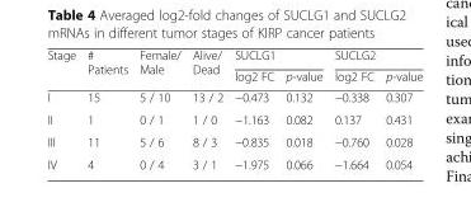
<table><thead><tr><td rowspan="2">Stage</td><td rowspan="2"># Patients</td><td rowspan="2">Female/ Male</td><td rowspan="2">Alive/ Dead</td><td colspan="2">SUCLG1</td><td colspan="2">SUCLG2</td></tr><tr><td>log2 FC</td><td>p-value</td><td>log2 FC</td><td>p-value</td></tr></thead><tbody><tr><td>I</td><td>15</td><td>5 / 10</td><td>13 / 2</td><td>−0.473</td><td>0.132</td><td>−0.338</td><td>0.307</td></tr><tr><td>II</td><td>1</td><td>0 / 1</td><td>1 / 0</td><td>−1.163</td><td>0.082</td><td>0.137</td><td>0.431</td></tr><tr><td>III</td><td>11</td><td>5 / 6</td><td>8 / 3</td><td>−0.835</td><td>0.018</td><td>−0.760</td><td>0.028</td></tr><tr><td>IV</td><td>4</td><td>0 / 4</td><td>3 / 1</td><td>−1.975</td><td>0.066</td><td>−1.664</td><td>0.054</td></tr></tbody></table>